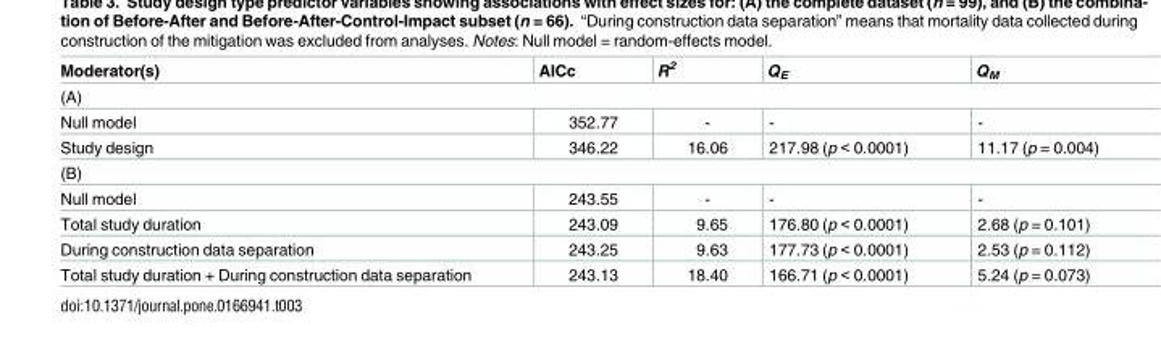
<table><thead><tr><td>Moderator(s)</td><td>AICc</td><td>R<sup>2</sup></td><td>Q<sub>E</sub></td><td>Q<sub>M</sub></td></tr></thead><tbody><tr><td colspan="5">(A)</td></tr><tr><td>Null model</td><td>352.77</td><td>-</td><td>-</td><td>-</td></tr><tr><td>Study design</td><td>346.22</td><td>16.06</td><td>217.98 (p &lt; 0.0001)</td><td>11.17 (p = 0.004)</td></tr><tr><td colspan="5">(B)</td></tr><tr><td>Null model</td><td>243.55</td><td>-</td><td>-</td><td>-</td></tr><tr><td>Total study duration</td><td>243.09</td><td>9.65</td><td>176.80 (p &lt; 0.0001)</td><td>2.68 (p = 0.101)</td></tr><tr><td>During construction data separation</td><td>243.25</td><td>9.63</td><td>177.73 (p &lt; 0.0001)</td><td>2.53 (p = 0.112)</td></tr><tr><td>Total study duration + During construction data separation</td><td>243.13</td><td>18.40</td><td>166.71 (p &lt; 0.0001)</td><td>5.24 (p = 0.073)</td></tr></tbody></table>